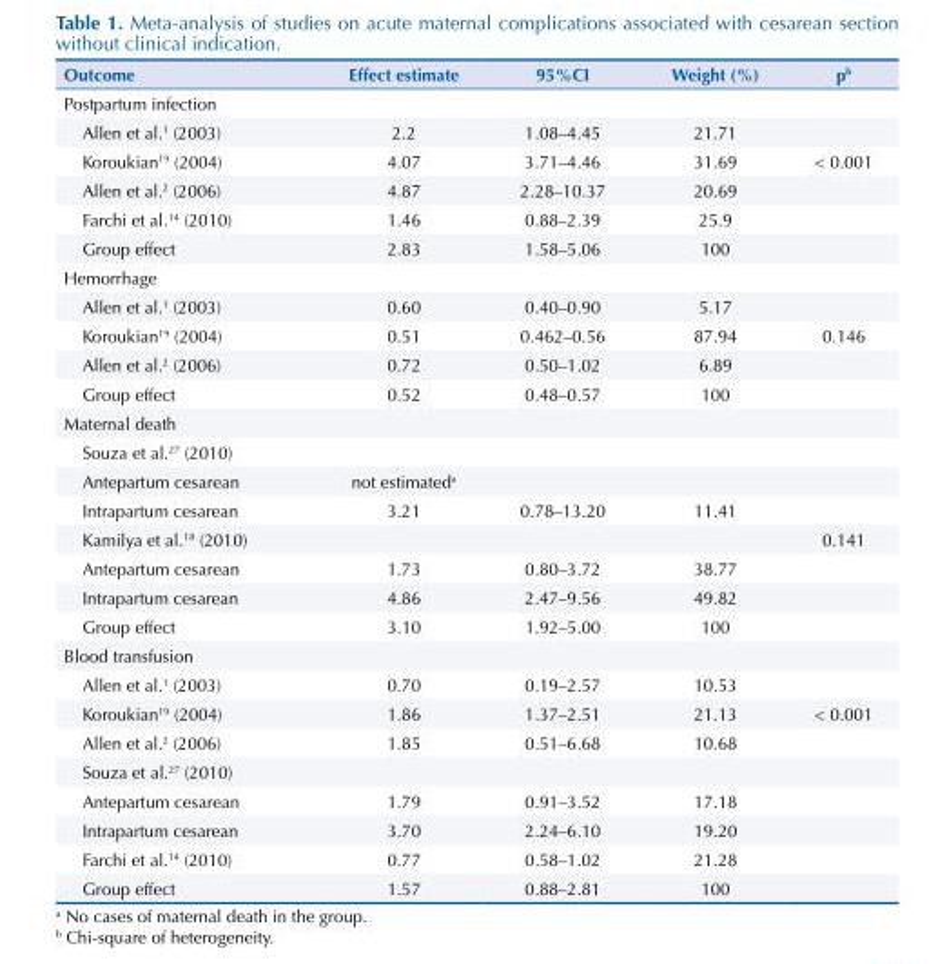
<table><thead><tr><td>Outcome</td><td>Effect estimate</td><td>95%CI</td><td>Weight (%)</td><td>p<sup>b</sup></td></tr></thead><tbody><tr><td colspan="5">Postpartum infection</td></tr><tr><td>Allen et al.<sup>1</sup> (2003)</td><td>2.2</td><td>1.08–4.45</td><td>21.71</td><td></td></tr><tr><td>Koroukian<sup>19</sup> (2004)</td><td>4.07</td><td>3.71–4.46</td><td>31.69</td><td>&lt; 0.001</td></tr><tr><td>Allen et al.<sup>2</sup> (2006)</td><td>4.87</td><td>2.28–10.37</td><td>20.69</td><td></td></tr><tr><td>Farchi et al.<sup>14</sup> (2010)</td><td>1.46</td><td>0.88–2.39</td><td>25.9</td><td></td></tr><tr><td>Group effect</td><td>2.83</td><td>1.58–5.06</td><td>100</td><td></td></tr><tr><td colspan="5">Hemorrhage</td></tr><tr><td>Allen et al.<sup>1</sup> (2003)</td><td>0.60</td><td>0.40–0.90</td><td>5.17</td><td></td></tr><tr><td>Koroukian<sup>19</sup> (2004)</td><td>0.51</td><td>0.462–0.56</td><td>87.94</td><td>0.146</td></tr><tr><td>Allen et al.<sup>2</sup> (2006)</td><td>0.72</td><td>0.50–1.02</td><td>6.89</td><td></td></tr><tr><td>Group effect</td><td>0.52</td><td>0.48–0.57</td><td>100</td><td></td></tr><tr><td colspan="5">Maternal death</td></tr><tr><td colspan="5">Souza et al.<sup>27</sup> (2010)</td></tr><tr><td>Antepartum cesarean</td><td>not estimated<sup>a</sup></td><td></td><td></td><td></td></tr><tr><td>Intrapartum cesarean</td><td>3.21</td><td>0.78–13.20</td><td>11.41</td><td></td></tr><tr><td>Kamilya et al.<sup>18</sup> (2010)</td><td></td><td></td><td></td><td>0.141</td></tr><tr><td>Antepartum cesarean</td><td>1.73</td><td>0.80–3.72</td><td>38.77</td><td></td></tr><tr><td>Intrapartum cesarean</td><td>4.86</td><td>2.47–9.56</td><td>49.82</td><td></td></tr><tr><td>Group effect</td><td>3.10</td><td>1.92–5.00</td><td>100</td><td></td></tr><tr><td colspan="5">Blood transfusion</td></tr><tr><td>Allen et al.<sup>1</sup> (2003)</td><td>0.70</td><td>0.19–2.57</td><td>10.53</td><td></td></tr><tr><td>Koroukian<sup>19</sup> (2004)</td><td>1.86</td><td>1.37–2.51</td><td>21.13</td><td>&lt; 0.001</td></tr><tr><td>Allen et al.<sup>2</sup> (2006)</td><td>1.85</td><td>0.51–6.68</td><td>10.68</td><td></td></tr><tr><td colspan="5">Souza et al.<sup>27</sup> (2010)</td></tr><tr><td>Antepartum cesarean</td><td>1.79</td><td>0.91–3.52</td><td>17.18</td><td></td></tr><tr><td>Intrapartum cesarean</td><td>3.70</td><td>2.24–6.10</td><td>19.20</td><td></td></tr><tr><td>Farchi et al.<sup>14</sup> (2010)</td><td>0.77</td><td>0.58–1.02</td><td>21.28</td><td></td></tr><tr><td>Group effect</td><td>1.57</td><td>0.88–2.81</td><td>100</td><td></td></tr></tbody></table>